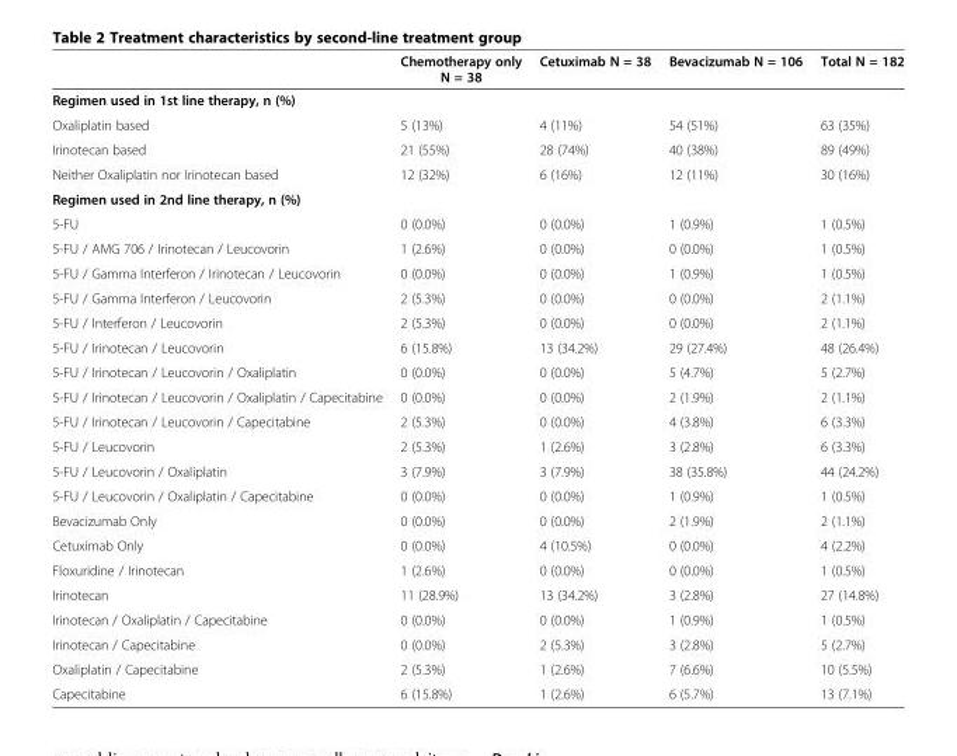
<table><thead><tr><td></td><td>Chemotherapy only N = 38</td><td>Cetuximab N = 38</td><td>Bevacizumab N = 106</td><td>Total N = 182</td></tr></thead><tbody><tr><td colspan="5">Regimen used in 1st line therapy, n (%)</td></tr><tr><td>Oxaliplatin based</td><td>5 (13%)</td><td>4 (11%)</td><td>54 (51%)</td><td>63 (35%)</td></tr><tr><td>Irinotecan based</td><td>21 (55%)</td><td>28 (74%)</td><td>40 (38%)</td><td>89 (49%)</td></tr><tr><td>Neither Oxaliplatin nor Irinotecan based</td><td>12 (32%)</td><td>6 (16%)</td><td>12 (11%)</td><td>30 (16%)</td></tr><tr><td colspan="5">Regimen used in 2nd line therapy, n (%)</td></tr><tr><td>5-FU</td><td>0 (0.0%)</td><td>0 (0.0%)</td><td>1 (0.9%)</td><td>1 (0.5%)</td></tr><tr><td>5-FU / AMG 706 / Irinotecan / Leucovorin</td><td>1 (2.6%)</td><td>0 (0.0%)</td><td>0 (0.0%)</td><td>1 (0.5%)</td></tr><tr><td>5-FU / Gamma Interferon / Irinotecan / Leucovorin</td><td>0 (0.0%)</td><td>0 (0.0%)</td><td>1 (0.9%)</td><td>1 (0.5%)</td></tr><tr><td>5-FU / Gamma Interferon / Leucovorin</td><td>2 (5.3%)</td><td>0 (0.0%)</td><td>0 (0.0%)</td><td>2 (1.1%)</td></tr><tr><td>5-FU / Interferon / Leucovorin</td><td>2 (5.3%)</td><td>0 (0.0%)</td><td>0 (0.0%)</td><td>2 (1.1%)</td></tr><tr><td>5-FU / Irinotecan / Leucovorin</td><td>6 (15.8%)</td><td>13 (34.2%)</td><td>29 (27.4%)</td><td>48 (26.4%)</td></tr><tr><td>5-FU / Irinotecan / Leucovorin / Oxaliplatin</td><td>0 (0.0%)</td><td>0 (0.0%)</td><td>5 (4.7%)</td><td>5 (2.7%)</td></tr><tr><td>5-FU / Irinotecan / Leucovorin / Oxaliplatin / Capecitabine</td><td>0 (0.0%)</td><td>0 (0.0%)</td><td>2 (1.9%)</td><td>2 (1.1%)</td></tr><tr><td>5-FU / Irinotecan / Leucovorin / Capecitabine</td><td>2 (5.3%)</td><td>0 (0.0%)</td><td>4 (3.8%)</td><td>6 (3.3%)</td></tr><tr><td>5-FU / Leucovorin</td><td>2 (5.3%)</td><td>1 (2.6%)</td><td>3 (2.8%)</td><td>6 (3.3%)</td></tr><tr><td>5-FU / Leucovorin / Oxaliplatin</td><td>3 (7.9%)</td><td>3 (7.9%)</td><td>38 (35.8%)</td><td>44 (24.2%)</td></tr><tr><td>5-FU / Leucovorin / Oxaliplatin / Capecitabine</td><td>0 (0.0%)</td><td>0 (0.0%)</td><td>1 (0.9%)</td><td>1 (0.5%)</td></tr><tr><td>Bevacizumab Only</td><td>0 (0.0%)</td><td>0 (0.0%)</td><td>2 (1.9%)</td><td>2 (1.1%)</td></tr><tr><td>Cetuximab Only</td><td>0 (0.0%)</td><td>4 (10.5%)</td><td>0 (0.0%)</td><td>4 (2.2%)</td></tr><tr><td>Floxuridine / Irinotecan</td><td>1 (2.6%)</td><td>0 (0.0%)</td><td>0 (0.0%)</td><td>1 (0.5%)</td></tr><tr><td>Irinotecan</td><td>11 (28.9%)</td><td>13 (34.2%)</td><td>3 (2.8%)</td><td>27 (14.8%)</td></tr><tr><td>Irinotecan / Oxaliplatin / Capecitabine</td><td>0 (0.0%)</td><td>0 (0.0%)</td><td>1 (0.9%)</td><td>1 (0.5%)</td></tr><tr><td>Irinotecan / Capecitabine</td><td>0 (0.0%)</td><td>2 (5.3%)</td><td>3 (2.8%)</td><td>5 (2.7%)</td></tr><tr><td>Oxaliplatin / Capecitabine</td><td>2 (5.3%)</td><td>1 (2.6%)</td><td>7 (6.6%)</td><td>10 (5.5%)</td></tr><tr><td>Capecitabine</td><td>6 (15.8%)</td><td>1 (2.6%)</td><td>6 (5.7%)</td><td>13 (7.1%)</td></tr></tbody></table>